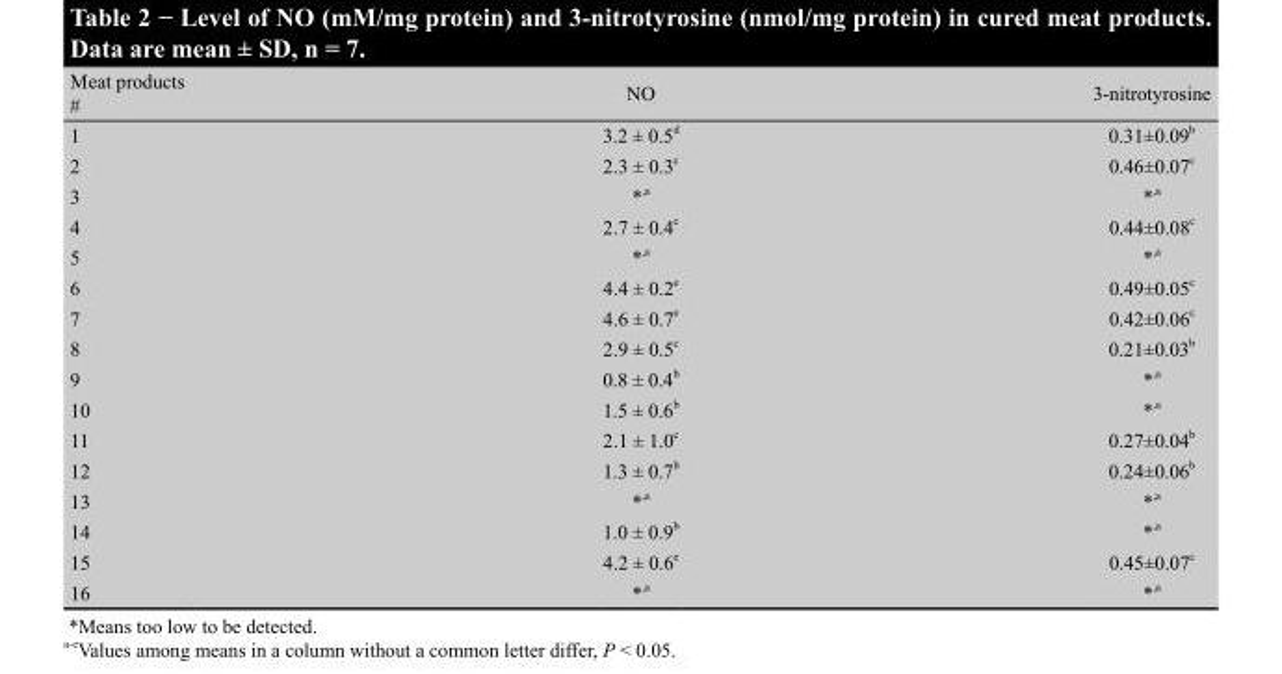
<table><thead><tr><td>Meat products #</td><td>NO</td><td>3-nitrotyrosine</td></tr></thead><tbody><tr><td>1</td><td>3.2 ± 0.5 <sup>d</sup></td><td>0.31±0.09 <sup>b</sup></td></tr><tr><td>2</td><td>2.3 ± 0.3 <sup>c</sup></td><td>0.46±0.07 <sup>c</sup></td></tr><tr><td>3</td><td>* ,<sup>a</sup></td><td>* ,<sup>a</sup></td></tr><tr><td>4</td><td>2.7 ± 0.4 <sup>c</sup></td><td>0.44±0.08 <sup>c</sup></td></tr><tr><td>5</td><td>* ,<sup>a</sup></td><td>* ,<sup>a</sup></td></tr><tr><td>6</td><td>4.4 ± 0.2 <sup>e</sup></td><td>0.49±0.05 <sup>c</sup></td></tr><tr><td>7</td><td>4.6 ± 0.7 <sup>e</sup></td><td>0.42±0.06 <sup>c</sup></td></tr><tr><td>8</td><td>2.9 ± 0.5 <sup>c</sup></td><td>0.21±0.03 <sup>b</sup></td></tr><tr><td>9</td><td>0.8 ± 0.4 <sup>b</sup></td><td>* ,<sup>a</sup></td></tr><tr><td>10</td><td>1.5 ± 0.6 <sup>b</sup></td><td>* ,<sup>a</sup></td></tr><tr><td>11</td><td>2.1 ± 1.0 <sup>c</sup></td><td>0.27±0.04 <sup>b</sup></td></tr><tr><td>12</td><td>1.3 ± 0.7 <sup>b</sup></td><td>0.24±0.06 <sup>b</sup></td></tr><tr><td>13</td><td>* ,<sup>a</sup></td><td>* ,<sup>a</sup></td></tr><tr><td>14</td><td>1.0 ± 0.9 <sup>b</sup></td><td>* ,<sup>a</sup></td></tr><tr><td>15</td><td>4.2 ± 0.6 <sup>e</sup></td><td>0.45±0.07 <sup>c</sup></td></tr><tr><td>16</td><td>* ,<sup>a</sup></td><td>* ,<sup>a</sup></td></tr></tbody></table>